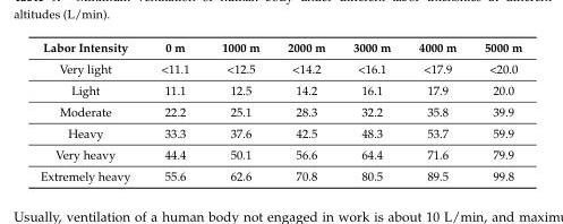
<table><thead><tr><td>Labor Intensity</td><td>0 m</td><td>1000 m</td><td>2000 m</td><td>3000 m</td><td>4000 m</td><td>5000 m</td></tr></thead><tbody><tr><td>Very light</td><td>&lt;11.1</td><td>&lt;12.5</td><td>&lt;14.2</td><td>&lt;16.1</td><td>&lt;17.9</td><td>&lt;20.0</td></tr><tr><td>Light</td><td>11.1</td><td>12.5</td><td>14.2</td><td>16.1</td><td>17.9</td><td>20.0</td></tr><tr><td>Moderate</td><td>22.2</td><td>25.1</td><td>28.3</td><td>32.2</td><td>35.8</td><td>39.9</td></tr><tr><td>Heavy</td><td>33.3</td><td>37.6</td><td>42.5</td><td>48.3</td><td>53.7</td><td>59.9</td></tr><tr><td>Very heavy</td><td>44.4</td><td>50.1</td><td>56.6</td><td>64.4</td><td>71.6</td><td>79.9</td></tr><tr><td>Extremely heavy</td><td>55.6</td><td>62.6</td><td>70.8</td><td>80.5</td><td>89.5</td><td>99.8</td></tr></tbody></table>